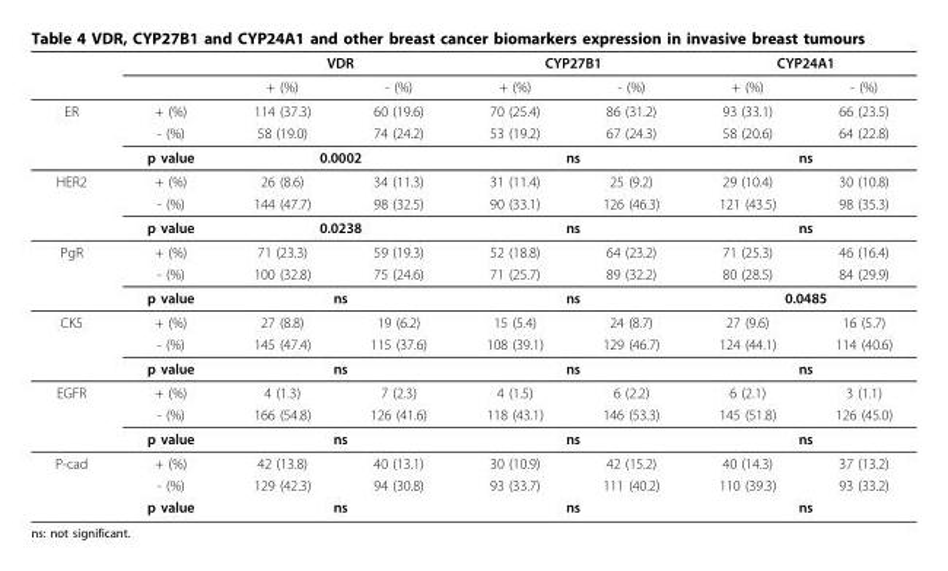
<table><thead><tr><td rowspan="2"></td><td rowspan="2"></td><td colspan="2">VDR</td><td colspan="2">CYP27B1</td><td colspan="2">CYP24A1</td></tr><tr><td>+ (%)</td><td>- (%)</td><td>+ (%)</td><td>- (%)</td><td>+ (%)</td><td>- (%)</td></tr></thead><tbody><tr><td rowspan="3">ER</td><td>+ (%)</td><td>114 (37.3)</td><td>60 (19.6)</td><td>70 (25.4)</td><td>86 (31.2)</td><td>93 (33.1)</td><td>66 (23.5)</td></tr><tr><td>- (%)</td><td>58 (19.0)</td><td>74 (24.2)</td><td>53 (19.2)</td><td>67 (24.3)</td><td>58 (20.6)</td><td>64 (22.8)</td></tr><tr><td>p value</td><td colspan="2">0.0002</td><td colspan="2">ns</td><td colspan="2">ns</td></tr><tr><td rowspan="3">HER2</td><td>+ (%)</td><td>26 (8.6)</td><td>34 (11.3)</td><td>31 (11.4)</td><td>25 (9.2)</td><td>29 (10.4)</td><td>30 (10.8)</td></tr><tr><td>- (%)</td><td>144 (47.7)</td><td>98 (32.5)</td><td>90 (33.1)</td><td>126 (46.3)</td><td>121 (43.5)</td><td>98 (35.3)</td></tr><tr><td>p value</td><td colspan="2">0.0238</td><td colspan="2">ns</td><td colspan="2">ns</td></tr><tr><td rowspan="3">PgR</td><td>+ (%)</td><td>71 (23.3)</td><td>59 (19.3)</td><td>52 (18.8)</td><td>64 (23.2)</td><td>71 (25.3)</td><td>46 (16.4)</td></tr><tr><td>- (%)</td><td>100 (32.8)</td><td>75 (24.6)</td><td>71 (25.7)</td><td>89 (32.2)</td><td>80 (28.5)</td><td>84 (29.9)</td></tr><tr><td>p value</td><td colspan="2">ns</td><td colspan="2">ns</td><td colspan="2">0.0485</td></tr><tr><td rowspan="3">CK5</td><td>+ (%)</td><td>27 (8.8)</td><td>19 (6.2)</td><td>15 (5.4)</td><td>24 (8.7)</td><td>27 (9.6)</td><td>16 (5.7)</td></tr><tr><td>- (%)</td><td>145 (47.4)</td><td>115 (37.6)</td><td>108 (39.1)</td><td>129 (46.7)</td><td>124 (44.1)</td><td>114 (40.6)</td></tr><tr><td>p value</td><td colspan="2">ns</td><td colspan="2">ns</td><td colspan="2">ns</td></tr><tr><td rowspan="3">EGFR</td><td>+ (%)</td><td>4 (1.3)</td><td>7 (2.3)</td><td>4 (1.5)</td><td>6 (2.2)</td><td>6 (2.1)</td><td>3 (1.1)</td></tr><tr><td>- (%)</td><td>166 (54.8)</td><td>126 (41.6)</td><td>118 (43.1)</td><td>146 (53.3)</td><td>145 (51.8)</td><td>126 (45.0)</td></tr><tr><td>p value</td><td colspan="2">ns</td><td colspan="2">ns</td><td colspan="2">ns</td></tr><tr><td rowspan="3">P-cad</td><td>+ (%)</td><td>42 (13.8)</td><td>40 (13.1)</td><td>30 (10.9)</td><td>42 (15.2)</td><td>40 (14.3)</td><td>37 (13.2)</td></tr><tr><td>- (%)</td><td>129 (42.3)</td><td>94 (30.8)</td><td>93 (33.7)</td><td>111 (40.2)</td><td>110 (39.3)</td><td>93 (33.2)</td></tr><tr><td>p value</td><td colspan="2">ns</td><td colspan="2">ns</td><td colspan="2">ns</td></tr></tbody></table>